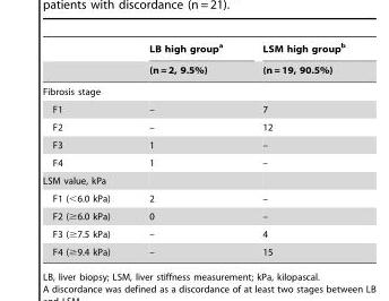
<table><thead><tr><td rowspan="2"></td><td rowspan="2">LB high group<sup>a</sup> (n = 2, 9.5%)</td><td rowspan="2">LSM high group<sup>b</sup> (n = 19, 90.5%)</td></tr><tr></tr></thead><tbody><tr><td colspan="3">Fibrosis stage</td></tr><tr><td>F1</td><td>–</td><td>7</td></tr><tr><td>F2</td><td>–</td><td>12</td></tr><tr><td>F3</td><td>1</td><td>–</td></tr><tr><td>F4</td><td>1</td><td>–</td></tr><tr><td colspan="3">LSM value, kPa</td></tr><tr><td>F1 (&lt;6.0 kPa)</td><td>2</td><td>–</td></tr><tr><td>F2 (≥6.0 kPa)</td><td>0</td><td>–</td></tr><tr><td>F3 (≥7.5 kPa)</td><td>–</td><td>4</td></tr><tr><td>F4 (≥9.4 kPa)</td><td>–</td><td>15</td></tr></tbody></table>